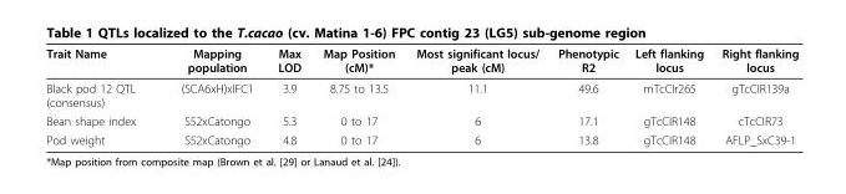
<table><thead><tr><td>Trait Name</td><td>Mapping population</td><td>Max LOD</td><td>Map Position (cM)*</td><td>Most significant locus/ peak (cM)</td><td>Phenotypic R2</td><td>Left flanking locus</td><td>Right flanking locus</td></tr></thead><tbody><tr><td>Black pod 12 QTL (consensus)</td><td>(SCA6xH)xIFC1</td><td>3.9</td><td>8.75 to 13.5</td><td>11.1</td><td>49.6</td><td>mTcCIr265</td><td>gTcCIR139a</td></tr><tr><td>Bean shape index</td><td>S52xCatongo</td><td>5.3</td><td>0 to 17</td><td>6</td><td>17.1</td><td>gTcCIR148</td><td>cTcCIR73</td></tr><tr><td>Pod weight</td><td>S52xCatongo</td><td>4.8</td><td>0 to 17</td><td>6</td><td>13.8</td><td>gTcCIR148</td><td>AFLP_SxC39-1</td></tr></tbody></table>